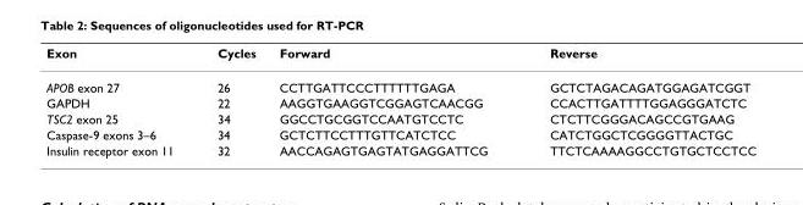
<table><thead><tr><td>Exon</td><td>Cycles</td><td>Forward</td><td>Reverse</td></tr></thead><tbody><tr><td>APOB exon 27</td><td>26</td><td>CCTTGATTCCCTTTTTTGAGA</td><td>GCTCTAGACAGATGGAGATCGGT</td></tr><tr><td>GAPDH</td><td>22</td><td>AAGGTGAAGGTCGGAGTCAACGG</td><td>CCACTTGATTTTGGAGGGATCTC</td></tr><tr><td>TSC2 exon 25</td><td>34</td><td>GGCCTGCGGTCCAATGTCCTC</td><td>CTCTTCGGGACAGCCGTGAAG</td></tr><tr><td>Caspase-9 exons 3–6</td><td>34</td><td>GCTCTTCCTTTGTTCATCTCC</td><td>CATCTGGCTCGGGGTTACTGC</td></tr><tr><td>Insulin receptor exon 11</td><td>32</td><td>AACCAGAGTGAGTATGAGGATTCG</td><td>TTCTCAAAAGGCCTGTGCTCCTCC</td></tr></tbody></table>